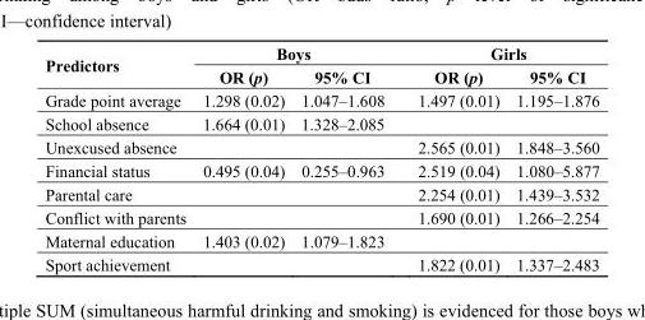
<table><thead><tr><td rowspan="2">Predictors</td><td colspan="2">Boys</td><td colspan="2">Girls</td></tr><tr><td>OR (p)</td><td>95% CI</td><td>OR (p)</td><td>95% CI</td></tr></thead><tbody><tr><td>Grade point average</td><td>1.298 (0.02)</td><td>1.047–1.608</td><td>1.497 (0.01)</td><td>1.195–1.876</td></tr><tr><td>School absence</td><td>1.664 (0.01)</td><td>1.328–2.085</td><td></td><td></td></tr><tr><td>Unexcused absence</td><td></td><td></td><td>2.565 (0.01)</td><td>1.848–3.560</td></tr><tr><td>Financial status</td><td>0.495 (0.04)</td><td>0.255–0.963</td><td>2.519 (0.04)</td><td>1.080–5.877</td></tr><tr><td>Parental care</td><td></td><td></td><td>2.254 (0.01)</td><td>1.439–3.532</td></tr><tr><td>Conflict with parents</td><td></td><td></td><td>1.690 (0.01)</td><td>1.266–2.254</td></tr><tr><td>Maternal education</td><td>1.403 (0.02)</td><td>1.079–1.823</td><td></td><td></td></tr><tr><td>Sport achievement</td><td></td><td></td><td>1.822 (0.01)</td><td>1.337–2.483</td></tr></tbody></table>